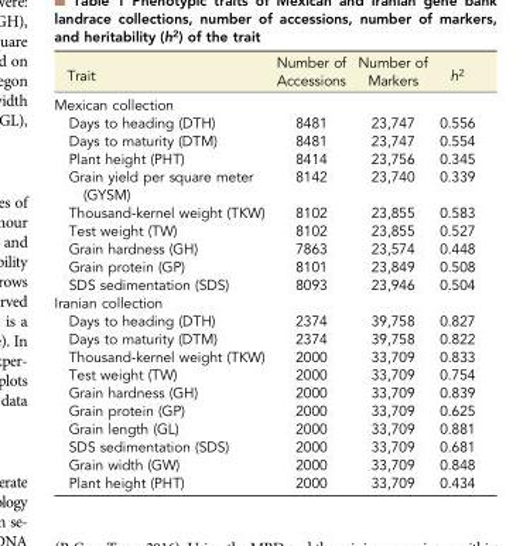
<table><thead><tr><td>Trait</td><td>Number of Accessions</td><td>Number of Markers</td><td>h<sup>2</sup></td></tr></thead><tbody><tr><td colspan="4">Mexican collection</td></tr><tr><td>Days to heading (DTH)</td><td>8481</td><td>23,747</td><td>0.556</td></tr><tr><td>Days to maturity (DTM)</td><td>8481</td><td>23,747</td><td>0.554</td></tr><tr><td>Plant height (PHT)</td><td>8414</td><td>23,756</td><td>0.345</td></tr><tr><td>Grain yield per square meter (GYSM)</td><td>8142</td><td>23,740</td><td>0.339</td></tr><tr><td>Thousand-kernel weight (TKW)</td><td>8102</td><td>23,855</td><td>0.583</td></tr><tr><td>Test weight (TW)</td><td>8102</td><td>23,855</td><td>0.527</td></tr><tr><td>Grain hardness (GH)</td><td>7863</td><td>23,574</td><td>0.448</td></tr><tr><td>Grain protein (GP)</td><td>8101</td><td>23,849</td><td>0.508</td></tr><tr><td>SDS sedimentation (SDS)</td><td>8093</td><td>23,946</td><td>0.504</td></tr><tr><td colspan="4">Iranian collection</td></tr><tr><td>Days to heading (DTH)</td><td>2374</td><td>39,758</td><td>0.827</td></tr><tr><td>Days to maturity (DTM)</td><td>2374</td><td>39,758</td><td>0.822</td></tr><tr><td>Thousand-kernel weight (TKW)</td><td>2000</td><td>33,709</td><td>0.833</td></tr><tr><td>Test weight (TW)</td><td>2000</td><td>33,709</td><td>0.754</td></tr><tr><td>Grain hardness (GH)</td><td>2000</td><td>33,709</td><td>0.839</td></tr><tr><td>Grain protein (GP)</td><td>2000</td><td>33,709</td><td>0.625</td></tr><tr><td>Grain length (GL)</td><td>2000</td><td>33,709</td><td>0.881</td></tr><tr><td>SDS sedimentation (SDS)</td><td>2000</td><td>33,709</td><td>0.681</td></tr><tr><td>Grain width (GW)</td><td>2000</td><td>33,709</td><td>0.848</td></tr><tr><td>Plant height (PHT)</td><td>2000</td><td>33,709</td><td>0.434</td></tr></tbody></table>